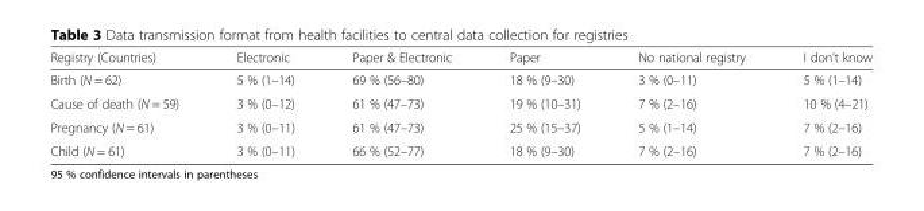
<table><thead><tr><td>Registry (Countries)</td><td>Electronic</td><td>Paper &amp; Electronic</td><td>Paper</td><td>No national registry</td><td>I don’t know</td></tr></thead><tbody><tr><td>Birth (N = 62)</td><td>5 % (1–14)</td><td>69 % (56–80)</td><td>18 % (9–30)</td><td>3 % (0–11)</td><td>5 % (1–14)</td></tr><tr><td>Cause of death (N = 59)</td><td>3 % (0–12)</td><td>61 % (47–73)</td><td>19 % (10–31)</td><td>7 % (2–16)</td><td>10 % (4–21)</td></tr><tr><td>Pregnancy (N = 61)</td><td>3 % (0–11)</td><td>61 % (47–73)</td><td>25 % (15–37)</td><td>5 % (1–14)</td><td>7 % (2–16)</td></tr><tr><td>Child (N = 61)</td><td>3 % (0–11)</td><td>66 % (52–77)</td><td>18 % (9–30)</td><td>7 % (2–16)</td><td>7 % (2–16)</td></tr></tbody></table>